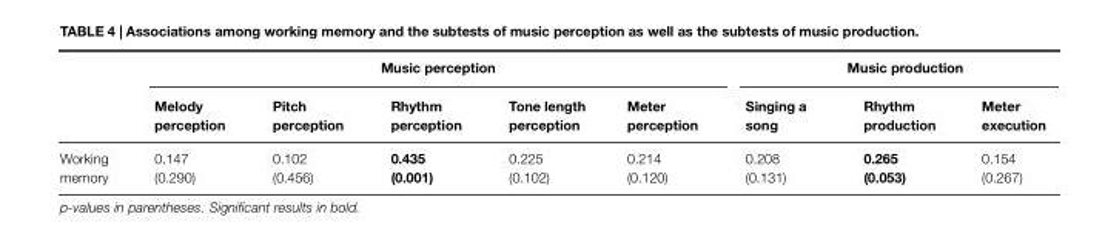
<table><thead><tr><td rowspan="2"></td><td colspan="5">Music perception</td><td colspan="3">Music production</td></tr><tr><td>Melody perception</td><td>Pitch perception</td><td>Rhythm perception</td><td>Tone length perception</td><td>Meter perception</td><td>Singing a song</td><td>Rhythm production</td><td>Meter execution</td></tr></thead><tbody><tr><td>Working memory</td><td>0.147 (0.290)</td><td>0.102 (0.456)</td><td>0.435 (0.001)</td><td>0.225 (0.102)</td><td>0.214 (0.120)</td><td>0.208 (0.131)</td><td>0.265 (0.053)</td><td>0.154 (0.267)</td></tr></tbody></table>